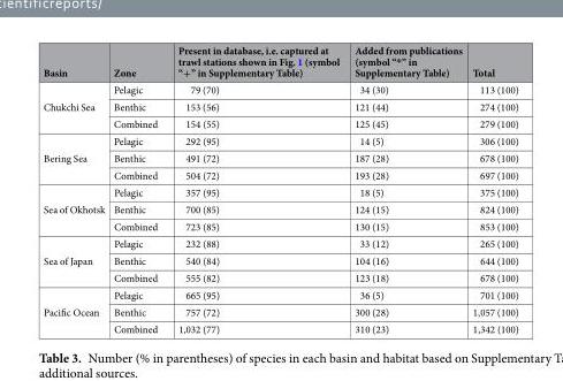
<table><thead><tr><td>Basin</td><td>Zone</td><td>Present in database, i.e. captured at trawl stations shown in Fig. 1 (symbol “+” in Supplementary Table)</td><td>Added from publications (symbol “*” in Supplementary Table)</td><td>Total</td></tr></thead><tbody><tr><td rowspan="3">Chukchi Sea</td><td>Pelagic</td><td>79 (70)</td><td>34 (30)</td><td>113 (100)</td></tr><tr><td>Benthic</td><td>153 (56)</td><td>121 (44)</td><td>274 (100)</td></tr><tr><td>Combined</td><td>154 (55)</td><td>125 (45)</td><td>279 (100)</td></tr><tr><td rowspan="3">Bering Sea</td><td>Pelagic</td><td>292 (95)</td><td>14 (5)</td><td>306 (100)</td></tr><tr><td>Benthic</td><td>491 (72)</td><td>187 (28)</td><td>678 (100)</td></tr><tr><td>Combined</td><td>504 (72)</td><td>193 (28)</td><td>697 (100)</td></tr><tr><td rowspan="3">Sea of Okhotsk</td><td>Pelagic</td><td>357 (95)</td><td>18 (5)</td><td>375 (100)</td></tr><tr><td>Benthic</td><td>700 (85)</td><td>124 (15)</td><td>824 (100)</td></tr><tr><td>Combined</td><td>723 (85)</td><td>130 (15)</td><td>853 (100)</td></tr><tr><td rowspan="3">Sea of Japan</td><td>Pelagic</td><td>232 (88)</td><td>33 (12)</td><td>265 (100)</td></tr><tr><td>Benthic</td><td>540 (84)</td><td>104 (16)</td><td>644 (100)</td></tr><tr><td>Combined</td><td>555 (82)</td><td>123 (18)</td><td>678 (100)</td></tr><tr><td rowspan="3">Pacific Ocean</td><td>Pelagic</td><td>665 (95)</td><td>36 (5)</td><td>701 (100)</td></tr><tr><td>Benthic</td><td>757 (72)</td><td>300 (28)</td><td>1,057 (100)</td></tr><tr><td>Combined</td><td>1,032 (77)</td><td>310 (23)</td><td>1,342 (100)</td></tr></tbody></table>